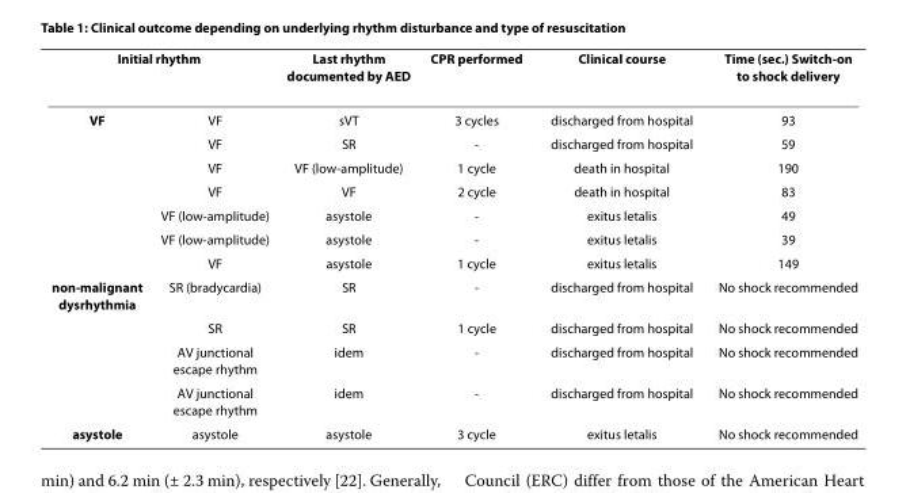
<table><thead><tr><td colspan="2">Initial rhythm</td><td rowspan="2">Last rhythm documented by AED sVT</td><td rowspan="2">CPR performed 3 cycles</td><td rowspan="2">Clinical course discharged from hospital</td><td rowspan="2">Time (sec.) Switch-on to shock delivery 93</td></tr><tr><td>VF</td><td>VF</td></tr></thead><tbody><tr><td></td><td>VF</td><td>SR</td><td>-</td><td>discharged from hospital</td><td>59</td></tr><tr><td></td><td>VF</td><td>VF (low-amplitude)</td><td>1 cycle</td><td>death in hospital</td><td>190</td></tr><tr><td></td><td>VF</td><td>VF</td><td>2 cycle</td><td>death in hospital</td><td>83</td></tr><tr><td></td><td>VF (low-amplitude)</td><td>asystole</td><td>-</td><td>exitus letalis</td><td>49</td></tr><tr><td></td><td>VF (low-amplitude)</td><td>asystole</td><td>-</td><td>exitus letalis</td><td>39</td></tr><tr><td></td><td>VF</td><td>asystole</td><td>1 cycle</td><td>exitus letalis</td><td>149</td></tr><tr><td rowspan="4">non-malignant dysrhythmia</td><td>SR (bradycardia)</td><td>SR</td><td>-</td><td>discharged from hospital</td><td>No shock recommended</td></tr><tr><td>SR</td><td>SR</td><td>1 cycle</td><td>discharged from hospital</td><td>No shock recommended</td></tr><tr><td>AV junctional escape rhythm</td><td>idem</td><td>-</td><td>discharged from hospital</td><td>No shock recommended</td></tr><tr><td>AV junctional escape rhythm</td><td>idem</td><td>-</td><td>discharged from hospital</td><td>No shock recommended</td></tr><tr><td>asystole</td><td>asystole</td><td>asystole</td><td>3 cycle</td><td>exitus letalis</td><td>No shock recommended</td></tr></tbody></table>